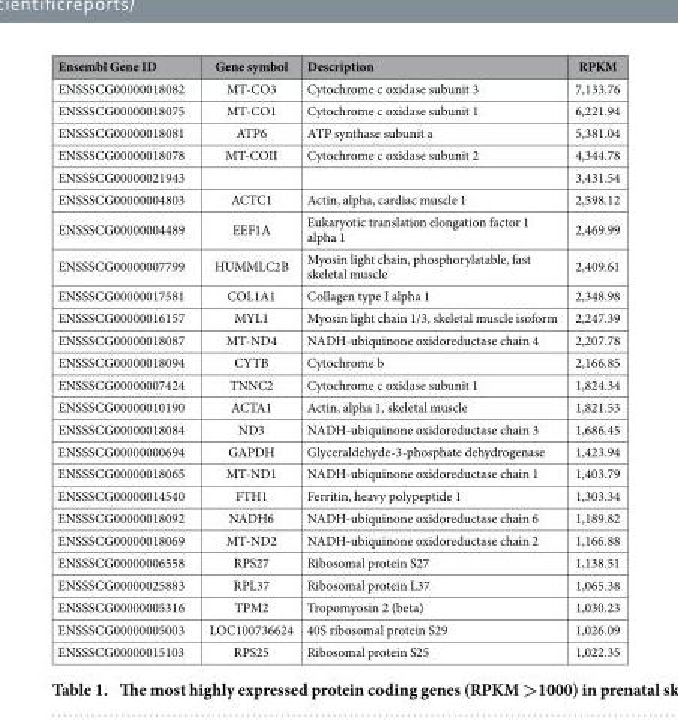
<table><thead><tr><td>Ensembl Gene ID</td><td>Gene symbol</td><td>Description</td><td>RPKM</td></tr></thead><tbody><tr><td>ENSSSCG00000018082</td><td>MT-CO3</td><td>Cytochrome c oxidase subunit 3</td><td>7,133.76</td></tr><tr><td>ENSSSCG00000018075</td><td>MT-CO1</td><td>Cytochrome c oxidase subunit 1</td><td>6,221.94</td></tr><tr><td>ENSSSCG00000018081</td><td>ATP6</td><td>ATP synthase subunit a</td><td>5,381.04</td></tr><tr><td>ENSSSCG00000018078</td><td>MT-COII</td><td>Cytochrome c oxidase subunit 2</td><td>4,344.78</td></tr><tr><td>ENSSSCG00000021943</td><td></td><td></td><td>3,431.54</td></tr><tr><td>ENSSSCG00000004803</td><td>ACTC1</td><td>Actin, alpha, cardiac muscle 1</td><td>2,598.12</td></tr><tr><td>ENSSSCG00000004489</td><td>EEF1A</td><td>Eukaryotic translation elongation factor 1 alpha 1</td><td>2,469.99</td></tr><tr><td>ENSSSCG00000007799</td><td>HUMMLC2B</td><td>Myosin light chain, phosphorylatable, fast skeletal muscle</td><td>2,409.61</td></tr><tr><td>ENSSSCG00000017581</td><td>COL1A1</td><td>Collagen type I alpha 1</td><td>2,348.98</td></tr><tr><td>ENSSSCG00000016157</td><td>MYL1</td><td>Myosin light chain 1/3, skeletal muscle isoform</td><td>2,247.39</td></tr><tr><td>ENSSSCG00000018087</td><td>MT-ND4</td><td>NADH-ubiquinone oxidoreductase chain 4</td><td>2,207.78</td></tr><tr><td>ENSSSCG00000018094</td><td>CYTB</td><td>Cytochrome b</td><td>2,166.85</td></tr><tr><td>ENSSSCG00000007424</td><td>TNNC2</td><td>Cytochrome c oxidase subunit 1</td><td>1,824.34</td></tr><tr><td>ENSSSCG00000010190</td><td>ACTA1</td><td>Actin, alpha 1, skeletal muscle</td><td>1,821.53</td></tr><tr><td>ENSSSCG00000018084</td><td>ND3</td><td>NADH-ubiquinone oxidoreductase chain 3</td><td>1,686.45</td></tr><tr><td>ENSSSCG00000000694</td><td>GAPDH</td><td>Glyceraldehyde-3-phosphate dehydrogenase</td><td>1,423.94</td></tr><tr><td>ENSSSCG00000018065</td><td>MT-ND1</td><td>NADH-ubiquinone oxidoreductase chain 1</td><td>1,403.79</td></tr><tr><td>ENSSSCG00000014540</td><td>FTH1</td><td>Ferritin, heavy polypeptide 1</td><td>1,303.34</td></tr><tr><td>ENSSSCG00000018092</td><td>NADH6</td><td>NADH-ubiquinone oxidoreductase chain 6</td><td>1,189.82</td></tr><tr><td>ENSSSCG00000018069</td><td>MT-ND2</td><td>NADH-ubiquinone oxidoreductase chain 2</td><td>1,166.88</td></tr><tr><td>ENSSSCG00000006558</td><td>RPS27</td><td>Ribosomal protein S27</td><td>1,138.51</td></tr><tr><td>ENSSSCG00000025883</td><td>RPL37</td><td>Ribosomal protein L37</td><td>1,065.38</td></tr><tr><td>ENSSSCG00000005316</td><td>TPM2</td><td>Tropomyosin 2 (beta)</td><td>1,030.23</td></tr><tr><td>ENSSSCG00000005003</td><td>LOC100736624</td><td>40S ribosomal protein S29</td><td>1,026.09</td></tr><tr><td>ENSSSCG00000015103</td><td>RPS25</td><td>Ribosomal protein S25</td><td>1,022.35</td></tr></tbody></table>